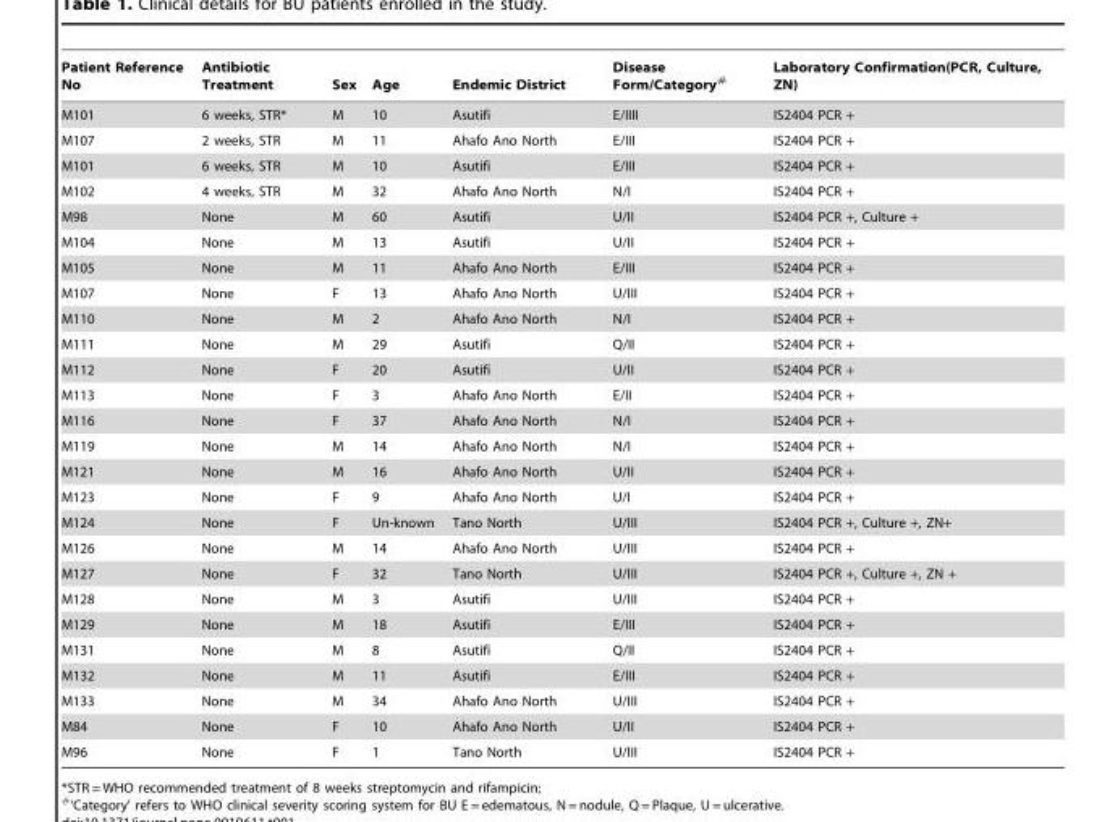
<table><thead><tr><td>Patient Reference No</td><td>Antibiotic Treatment</td><td>Sex</td><td>Age</td><td>Endemic District</td><td>Disease Form/Category#</td><td>Laboratory Confirmation(PCR, Culture, ZN)</td></tr></thead><tbody><tr><td>M101</td><td>6 weeks, STR*</td><td>M</td><td>10</td><td>Asutifi</td><td>E/IIII</td><td>IS2404 PCR +</td></tr><tr><td>M107</td><td>2 weeks, STR</td><td>M</td><td>11</td><td>Ahafo Ano North</td><td>E/III</td><td>IS2404 PCR +</td></tr><tr><td>M101</td><td>6 weeks, STR</td><td>M</td><td>10</td><td>Asutifi</td><td>E/III</td><td>IS2404 PCR +</td></tr><tr><td>M102</td><td>4 weeks, STR</td><td>M</td><td>32</td><td>Ahafo Ano North</td><td>N/I</td><td>IS2404 PCR +</td></tr><tr><td>M98</td><td>None</td><td>M</td><td>60</td><td>Asutifi</td><td>U/II</td><td>IS2404 PCR +, Culture +</td></tr><tr><td>M104</td><td>None</td><td>M</td><td>13</td><td>Asutifi</td><td>U/II</td><td>IS2404 PCR +</td></tr><tr><td>M105</td><td>None</td><td>M</td><td>11</td><td>Ahafo Ano North</td><td>E/III</td><td>IS2404 PCR +</td></tr><tr><td>M107</td><td>None</td><td>F</td><td>13</td><td>Ahafo Ano North</td><td>U/III</td><td>IS2404 PCR +</td></tr><tr><td>M110</td><td>None</td><td>M</td><td>2</td><td>Ahafo Ano North</td><td>N/I</td><td>IS2404 PCR +</td></tr><tr><td>M111</td><td>None</td><td>M</td><td>29</td><td>Asutifi</td><td>Q/II</td><td>IS2404 PCR +</td></tr><tr><td>M112</td><td>None</td><td>F</td><td>20</td><td>Asutifi</td><td>U/II</td><td>IS2404 PCR +</td></tr><tr><td>M113</td><td>None</td><td>F</td><td>3</td><td>Ahafo Ano North</td><td>E/II</td><td>IS2404 PCR +</td></tr><tr><td>M116</td><td>None</td><td>F</td><td>37</td><td>Ahafo Ano North</td><td>N/I</td><td>IS2404 PCR +</td></tr><tr><td>M119</td><td>None</td><td>M</td><td>14</td><td>Ahafo Ano North</td><td>N/I</td><td>IS2404 PCR +</td></tr><tr><td>M121</td><td>None</td><td>M</td><td>16</td><td>Ahafo Ano North</td><td>U/II</td><td>IS2404 PCR +</td></tr><tr><td>M123</td><td>None</td><td>F</td><td>9</td><td>Ahafo Ano North</td><td>U/I</td><td>IS2404 PCR +</td></tr><tr><td>M124</td><td>None</td><td>F</td><td>Un-known</td><td>Tano North</td><td>U/III</td><td>IS2404 PCR +, Culture +, ZN+</td></tr><tr><td>M126</td><td>None</td><td>M</td><td>14</td><td>Ahafo Ano North</td><td>U/III</td><td>IS2404 PCR +</td></tr><tr><td>M127</td><td>None</td><td>F</td><td>32</td><td>Tano North</td><td>U/III</td><td>IS2404 PCR +, Culture +, ZN +</td></tr><tr><td>M128</td><td>None</td><td>M</td><td>3</td><td>Asutifi</td><td>U/III</td><td>IS2404 PCR +</td></tr><tr><td>M129</td><td>None</td><td>M</td><td>18</td><td>Asutifi</td><td>E/III</td><td>IS2404 PCR +</td></tr><tr><td>M131</td><td>None</td><td>M</td><td>8</td><td>Asutifi</td><td>Q/II</td><td>IS2404 PCR +</td></tr><tr><td>M132</td><td>None</td><td>M</td><td>11</td><td>Asutifi</td><td>E/III</td><td>IS2404 PCR +</td></tr><tr><td>M133</td><td>None</td><td>M</td><td>34</td><td>Ahafo Ano North</td><td>U/III</td><td>IS2404 PCR +</td></tr><tr><td>M84</td><td>None</td><td>F</td><td>10</td><td>Ahafo Ano North</td><td>U/II</td><td>IS2404 PCR +</td></tr><tr><td>M96</td><td>None</td><td>F</td><td>1</td><td>Tano North</td><td>U/III</td><td>IS2404 PCR +</td></tr></tbody></table>